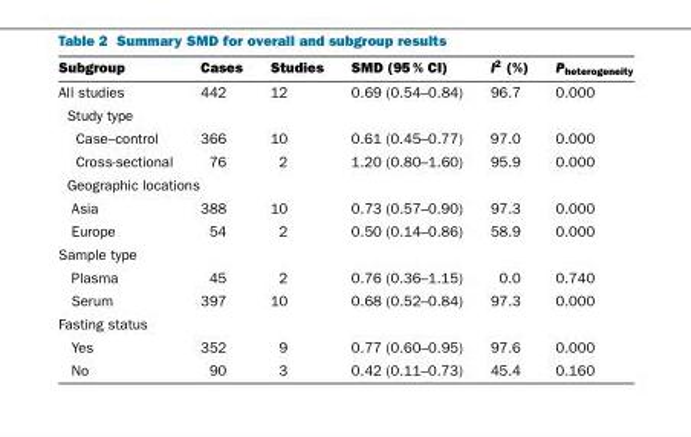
<table><thead><tr><td>Subgroup</td><td>Cases</td><td>Studies</td><td>SMD (95 % CI)</td><td>I<sup>2</sup> (%)</td><td>P<sub>heterogeneity</sub></td></tr></thead><tbody><tr><td>All studies</td><td>442</td><td>12</td><td>0.69 (0.54–0.84)</td><td>96.7</td><td>0.000</td></tr><tr><td colspan="6">Study type</td></tr><tr><td>Case–control</td><td>366</td><td>10</td><td>0.61 (0.45–0.77)</td><td>97.0</td><td>0.000</td></tr><tr><td>Cross-sectional</td><td>76</td><td>2</td><td>1.20 (0.80–1.60)</td><td>95.9</td><td>0.000</td></tr><tr><td colspan="6">Geographic locations</td></tr><tr><td>Asia</td><td>388</td><td>10</td><td>0.73 (0.57–0.90)</td><td>97.3</td><td>0.000</td></tr><tr><td>Europe</td><td>54</td><td>2</td><td>0.50 (0.14–0.86)</td><td>58.9</td><td>0.000</td></tr><tr><td colspan="6">Sample type</td></tr><tr><td>Plasma</td><td>45</td><td>2</td><td>0.76 (0.36–1.15)</td><td>0.0</td><td>0.740</td></tr><tr><td>Serum</td><td>397</td><td>10</td><td>0.68 (0.52–0.84)</td><td>97.3</td><td>0.000</td></tr><tr><td colspan="6">Fasting status</td></tr><tr><td>Yes</td><td>352</td><td>9</td><td>0.77 (0.60–0.95)</td><td>97.6</td><td>0.000</td></tr><tr><td>No</td><td>90</td><td>3</td><td>0.42 (0.11–0.73)</td><td>45.4</td><td>0.160</td></tr></tbody></table>